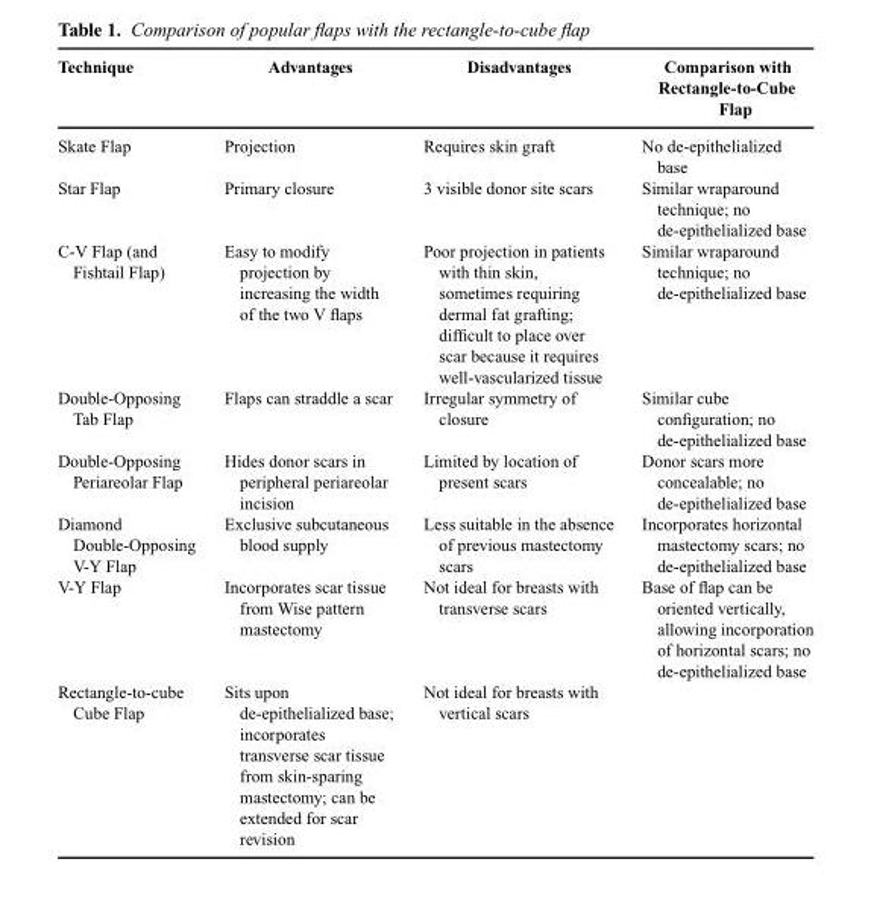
<table><thead><tr><td>Technique</td><td>Advantages</td><td>Disadvantages</td><td>Comparison with Rectangle-to-Cube Flap</td></tr></thead><tbody><tr><td>Skate Flap</td><td>Projection</td><td>Requires skin graft</td><td>No de-epithelialized base</td></tr><tr><td>Star Flap</td><td>Primary closure</td><td>3 visible donor site scars</td><td>Similar wraparound technique; no de-epithelialized base</td></tr><tr><td>C-V Flap (and Fishtail Flap)</td><td>Easy to modify projection by increasing the width of the two V flaps</td><td>Poor projection in patients with thin skin, sometimes requiring dermal fat grafting; difficult to place over scar because it requires well-vascularized tissue</td><td>Similar wraparound technique; no de-epithelialized base</td></tr><tr><td>Double-Opposing Tab Flap</td><td>Flaps can straddle a scar</td><td>Irregular symmetry of closure</td><td>Similar cube configuration; no de-epithelialized base</td></tr><tr><td>Double-Opposing Periareolar Flap</td><td>Hides donor scars in peripheral periareolar incision</td><td>Limited by location of present scars</td><td>Donor scars more concealable; no de-epithelialized base</td></tr><tr><td>Diamond Double-Opposing V-Y Flap</td><td>Exclusive subcutaneous blood supply</td><td>Less suitable in the absence of previous mastectomy scars</td><td>Incorporates horizontal mastectomy scars; no de-epithelialized base</td></tr><tr><td>V-Y Flap</td><td>Incorporates scar tissue from Wise pattern mastectomy</td><td>Not ideal for breasts with transverse scars</td><td>Base of flap can be oriented vertically, allowing incorporation of horizontal scars; no de-epithelialized base</td></tr><tr><td>Rectangle-to-cube Cube Flap</td><td>Sits upon de-epithelialized base; incorporates transverse scar tissue from skin-sparing mastectomy; can be extended for scar revision</td><td>Not ideal for breasts with vertical scars</td><td></td></tr></tbody></table>